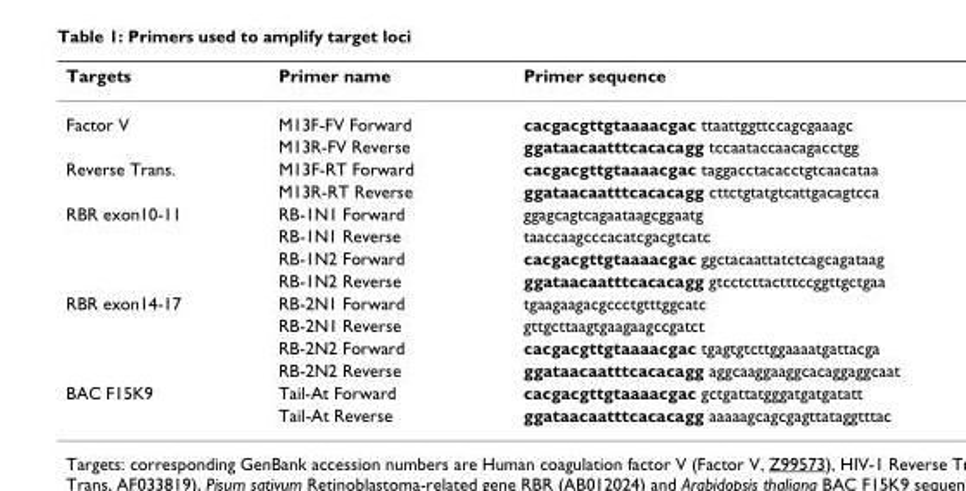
<table><thead><tr><td>Targets</td><td>Primer name</td><td>Primer sequence</td></tr></thead><tbody><tr><td rowspan="2">Factor V</td><td>M13F-FV Forward</td><td>cacgacgttgtaaaacgac ttaattggttccagcgaaagc</td></tr><tr><td>M13R-FV Reverse</td><td>ggataacaatttcacacagg tccaataccaacagacctgg</td></tr><tr><td rowspan="2">Reverse Trans.</td><td>M13F-RT Forward</td><td>cacgacgttgtaaaacgac taggacctacacctgtcaacataa</td></tr><tr><td>M13R-RT Reverse</td><td>ggataacaatttcacacagg cttctgtatgtcattgacagtcca</td></tr><tr><td rowspan="4">RBR exon10-11</td><td>RB-1N1 Forward</td><td>ggagcagtcagaataagcggaatg</td></tr><tr><td>RB-1N1 Reverse</td><td>taaccaagcccacatcgacgtcatc</td></tr><tr><td>RB-1N2 Forward</td><td>cacgacgttgtaaaacgac ggctacaattatctcagcagataag</td></tr><tr><td>RB-1N2 Reverse</td><td>ggataacaatttcacacagg gtcctcttactttccggttgctgaa</td></tr><tr><td rowspan="4">RBR exon14-17</td><td>RB-2N1 Forward</td><td>tgaagaagacgccctgtttggcatc</td></tr><tr><td>RB-2N1 Reverse</td><td>gttgcttaagtgaagaagccgatct</td></tr><tr><td>RB-2N2 Forward</td><td>cacgacgttgtaaaacgac tgagtgtcttggaaaatgattacga</td></tr><tr><td>RB-2N2 Reverse</td><td>ggataacaatttcacacagg aggcaaggaaggcacaggaggcaat</td></tr><tr><td rowspan="2">BAC F15K9</td><td>Tail-At Forward</td><td>cacgacgttgtaaaacgac gctgattatgggatgatgatatt</td></tr><tr><td>Tail-At Reverse</td><td>ggataacaatttcacacagg aaaaagcagcgagttataggtttac</td></tr></tbody></table>